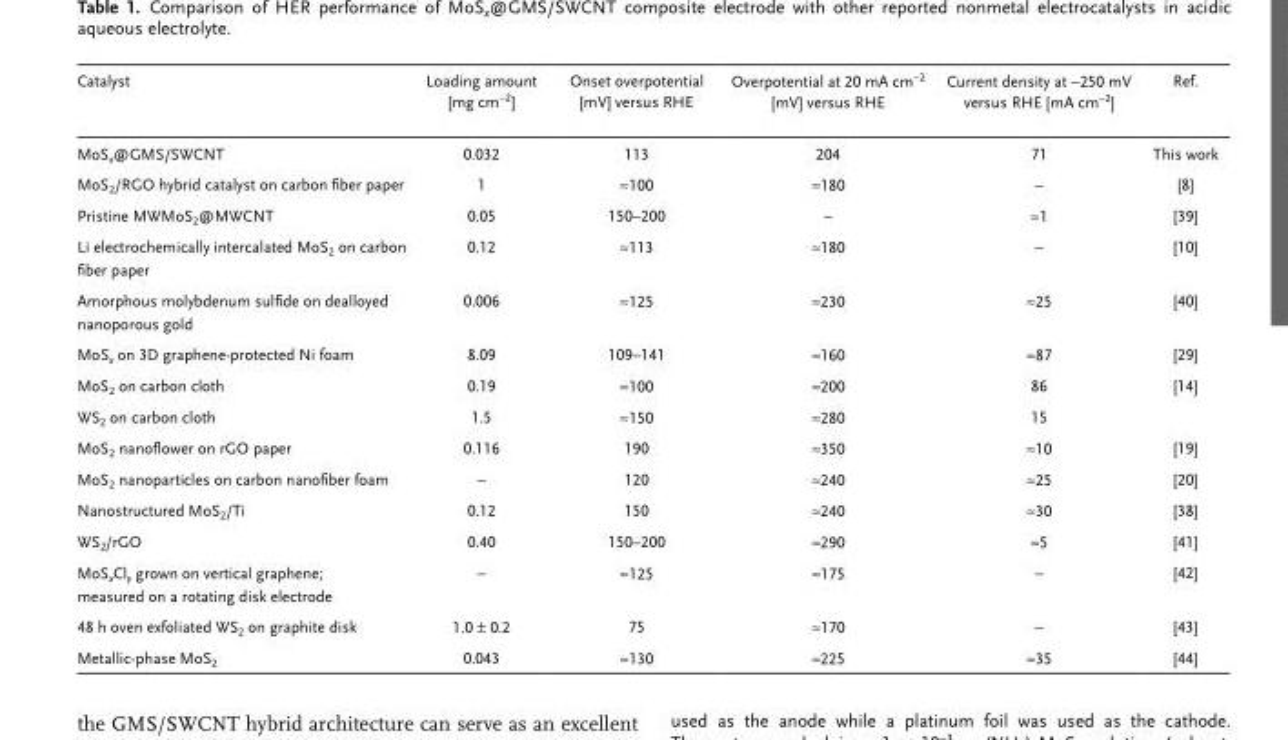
<table><thead><tr><td>Catalyst</td><td>Loading amount [mg cm<sup>−2</sup>]</td><td>Onset overpotential [mV] versus RHE</td><td>Overpotential at 20 mA cm<sup>−2</sup> [mV] versus RHE</td><td>Current density at −250 mV versus RHE [mA cm<sup>−2</sup>]</td><td>Ref.</td></tr></thead><tbody><tr><td>MoS<sub>x</sub>@GMS/SWCNT</td><td>0.032</td><td>113</td><td>204</td><td>71</td><td>This work</td></tr><tr><td>MoS<sub>2</sub>/RGO hybrid catalyst on carbon fiber paper</td><td>1</td><td>≈100</td><td>≈180</td><td>–</td><td>[8]</td></tr><tr><td>Pristine MWMoS<sub>2</sub>@MWCNT</td><td>0.05</td><td>150–200</td><td>–</td><td>≈1</td><td>[39]</td></tr><tr><td>Li electrochemically intercalated MoS<sub>2</sub> on carbon fiber paper</td><td>0.12</td><td>≈113</td><td>≈180</td><td>–</td><td>[10]</td></tr><tr><td>Amorphous molybdenum sulfide on dealloyed nanoporous gold</td><td>0.006</td><td>≈125</td><td>≈230</td><td>≈25</td><td>[40]</td></tr><tr><td>MoS<sub>x</sub> on 3D graphene-protected Ni foam</td><td>8.09</td><td>109–141</td><td>≈160</td><td>≈87</td><td>[29]</td></tr><tr><td>MoS<sub>2</sub> on carbon cloth</td><td>0.19</td><td>≈100</td><td>≈200</td><td>86</td><td>[14]</td></tr><tr><td>WS<sub>2</sub> on carbon cloth</td><td>1.5</td><td>≈150</td><td>≈280</td><td>15</td><td></td></tr><tr><td>MoS<sub>2</sub> nanoflower on rGO paper</td><td>0.116</td><td>190</td><td>≈350</td><td>≈10</td><td>[19]</td></tr><tr><td>MoS<sub>2</sub> nanoparticles on carbon nanofiber foam</td><td>–</td><td>120</td><td>≈240</td><td>≈25</td><td>[20]</td></tr><tr><td>Nanostructured MoS<sub>2</sub>/Ti</td><td>0.12</td><td>150</td><td>≈240</td><td>≈30</td><td>[38]</td></tr><tr><td>WS<sub>2</sub>/rGO</td><td>0.40</td><td>150–200</td><td>≈290</td><td>≈5</td><td>[41]</td></tr><tr><td>MoS<sub>x</sub>Cl<sub>y</sub> grown on vertical graphene; measured on a rotating disk electrode</td><td>–</td><td>≈125</td><td>≈175</td><td>–</td><td>[42]</td></tr><tr><td>48 h oven exfoliated WS<sub>2</sub> on graphite disk</td><td>1.0 ± 0.2</td><td>75</td><td>≈170</td><td>–</td><td>[43]</td></tr><tr><td>Metallic-phase MoS<sub>2</sub></td><td>0.043</td><td>≈130</td><td>≈225</td><td>≈35</td><td>[44]</td></tr></tbody></table>